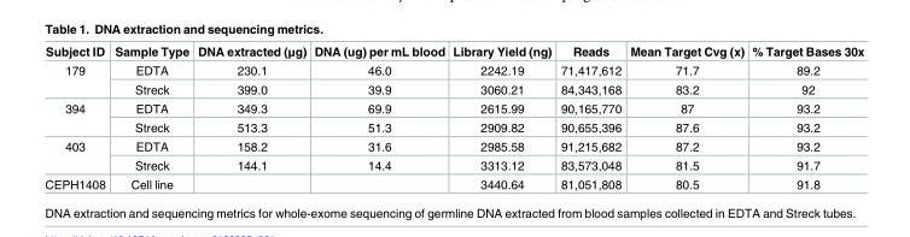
<table><thead><tr><td>Subject ID</td><td>Sample Type</td><td>DNA extracted (μg)</td><td>DNA (ug) per mL blood</td><td>Library Yield (ng)</td><td>Reads</td><td>Mean Target Cvg (x)</td><td>% Target Bases 30x</td></tr></thead><tbody><tr><td rowspan="2">179</td><td>EDTA</td><td>230.1</td><td>46.0</td><td>2242.19</td><td>71,417,612</td><td>71.7</td><td>89.2</td></tr><tr><td>Streck</td><td>399.0</td><td>39.9</td><td>3060.21</td><td>84,343,168</td><td>83.2</td><td>92</td></tr><tr><td rowspan="2">394</td><td>EDTA</td><td>349.3</td><td>69.9</td><td>2615.99</td><td>90,165,770</td><td>87</td><td>93.2</td></tr><tr><td>Streck</td><td>513.3</td><td>51.3</td><td>2909.82</td><td>90,655,396</td><td>87.6</td><td>93.2</td></tr><tr><td rowspan="2">403</td><td>EDTA</td><td>158.2</td><td>31.6</td><td>2985.58</td><td>91,215,682</td><td>87.2</td><td>93.2</td></tr><tr><td>Streck</td><td>144.1</td><td>14.4</td><td>3313.12</td><td>83,573,048</td><td>81.5</td><td>91.7</td></tr><tr><td>CEPH1408</td><td>Cell line</td><td></td><td></td><td>3440.64</td><td>81,051,808</td><td>80.5</td><td>91.8</td></tr></tbody></table>